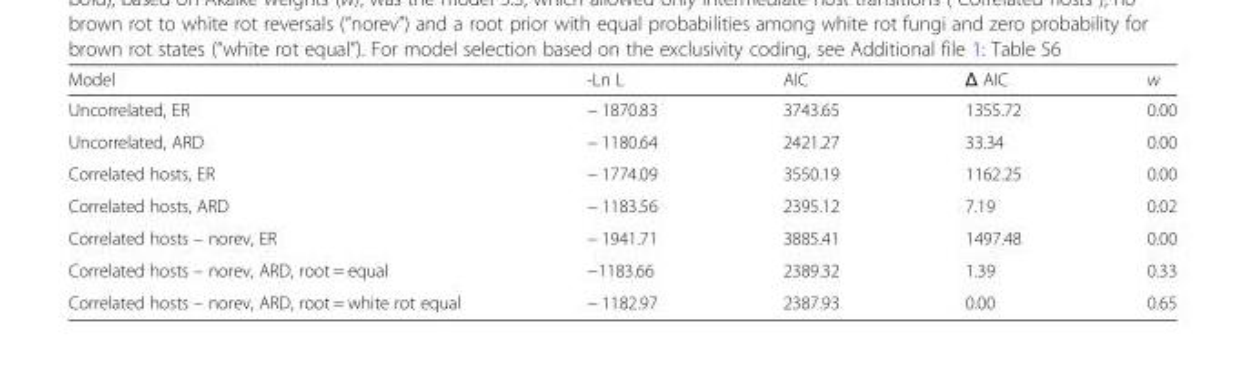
<table><thead><tr><td>Model</td><td>-Ln L</td><td>AIC</td><td>Δ AIC</td><td>w</td></tr></thead><tbody><tr><td>Uncorrelated, ER</td><td>− 1870.83</td><td>3743.65</td><td>1355.72</td><td>0.00</td></tr><tr><td>Uncorrelated, ARD</td><td>− 1180.64</td><td>2421.27</td><td>33.34</td><td>0.00</td></tr><tr><td>Correlated hosts, ER</td><td>− 1774.09</td><td>3550.19</td><td>1162.25</td><td>0.00</td></tr><tr><td>Correlated hosts, ARD</td><td>− 1183.56</td><td>2395.12</td><td>7.19</td><td>0.02</td></tr><tr><td>Correlated hosts – norev, ER</td><td>− 1941.71</td><td>3885.41</td><td>1497.48</td><td>0.00</td></tr><tr><td>Correlated hosts – norev, ARD, root = equal</td><td>−1183.66</td><td>2389.32</td><td>1.39</td><td>0.33</td></tr><tr><td>Correlated hosts – norev, ARD, root = white rot equal</td><td>− 1182.97</td><td>2387.93</td><td>0.00</td><td>0.65</td></tr></tbody></table>